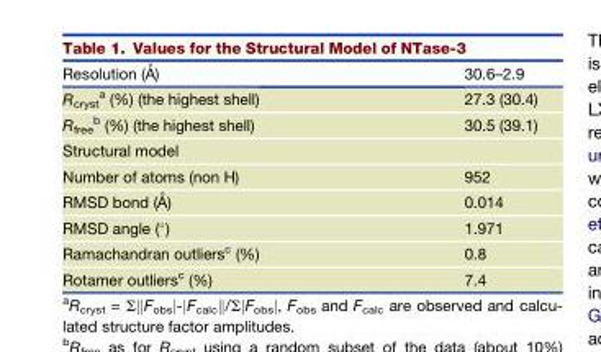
<table><thead><tr><td>Resolution (A˚ )</td><td>30.6–2.9</td></tr></thead><tbody><tr><td>R<sub>cryst</sub> <sup>a</sup> (%) (the highest shell)</td><td>27.3 (30.4)</td></tr><tr><td>R<sub>free</sub> <sup>b</sup> (%) (the highest shell)</td><td>30.5 (39.1)</td></tr><tr><td colspan="2">Structural model</td></tr><tr><td>Number of atoms (non H)</td><td>952</td></tr><tr><td>RMSD bond (A˚ )</td><td>0.014</td></tr><tr><td>RMSD angle (°)</td><td>1.971</td></tr><tr><td>Ramachandran outliers<sup>c</sup> (%)</td><td>0.8</td></tr><tr><td>Rotamer outliers<sup>c</sup> (%)</td><td>7.4</td></tr></tbody></table>